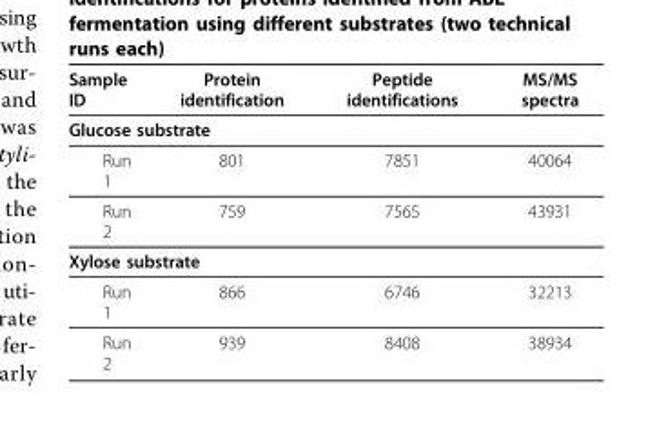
<table><thead><tr><td>Sample ID</td><td>Protein identification</td><td>Peptide identifications</td><td>MS/MS spectra</td></tr></thead><tbody><tr><td colspan="4">Glucose substrate</td></tr><tr><td>Run 1</td><td>801</td><td>7851</td><td>40064</td></tr><tr><td>Run 2</td><td>759</td><td>7565</td><td>43931</td></tr><tr><td colspan="4">Xylose substrate</td></tr><tr><td>Run 1</td><td>866</td><td>6746</td><td>32213</td></tr><tr><td>Run 2</td><td>939</td><td>8408</td><td>38934</td></tr></tbody></table>